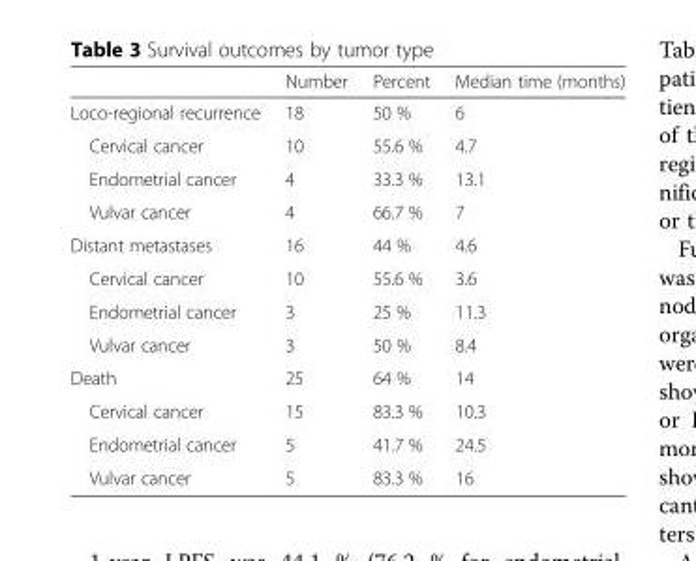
<table><thead><tr><td></td><td>Number</td><td>Percent</td><td>Median time (months)</td></tr></thead><tbody><tr><td>Loco-regional recurrence</td><td>18</td><td>50 %</td><td>6</td></tr><tr><td>Cervical cancer</td><td>10</td><td>55.6 %</td><td>4.7</td></tr><tr><td>Endometrial cancer</td><td>4</td><td>33.3 %</td><td>13.1</td></tr><tr><td>Vulvar cancer</td><td>4</td><td>66.7 %</td><td>7</td></tr><tr><td>Distant metastases</td><td>16</td><td>44 %</td><td>4.6</td></tr><tr><td>Cervical cancer</td><td>10</td><td>55.6 %</td><td>3.6</td></tr><tr><td>Endometrial cancer</td><td>3</td><td>25 %</td><td>11.3</td></tr><tr><td>Vulvar cancer</td><td>3</td><td>50 %</td><td>8.4</td></tr><tr><td>Death</td><td>25</td><td>64 %</td><td>14</td></tr><tr><td>Cervical cancer</td><td>15</td><td>83.3 %</td><td>10.3</td></tr><tr><td>Endometrial cancer</td><td>5</td><td>41.7 %</td><td>24.5</td></tr><tr><td>Vulvar cancer</td><td>5</td><td>83.3 %</td><td>16</td></tr></tbody></table>